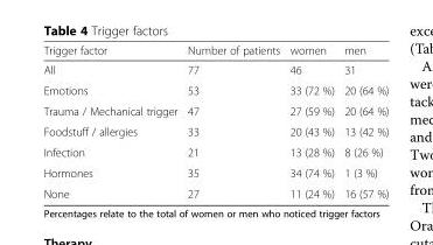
<table><thead><tr><td>Trigger factor</td><td>Number of patients</td><td>women</td><td>men</td></tr></thead><tbody><tr><td>All</td><td>77</td><td>46</td><td>31</td></tr><tr><td>Emotions</td><td>53</td><td>33 (72 %)</td><td>20 (64 %)</td></tr><tr><td>Trauma / Mechanical trigger</td><td>47</td><td>27 (59 %)</td><td>20 (64 %)</td></tr><tr><td>Foodstuff / allergies</td><td>33</td><td>20 (43 %)</td><td>13 (42 %)</td></tr><tr><td>Infection</td><td>21</td><td>13 (28 %)</td><td>8 (26 %)</td></tr><tr><td>Hormones</td><td>35</td><td>34 (74 %)</td><td>1 (3 %)</td></tr><tr><td>None</td><td>27</td><td>11 (24 %)</td><td>16 (57 %)</td></tr></tbody></table>